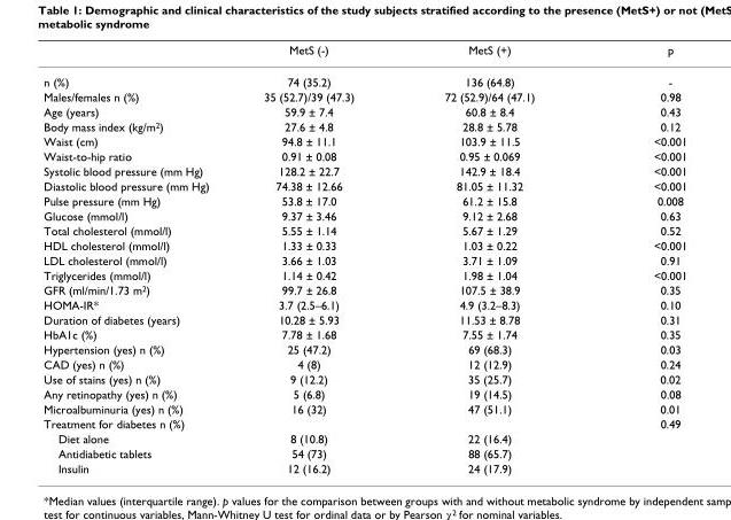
<table><thead><tr><td></td><td>MetS (-)</td><td>MetS (+)</td><td>p</td></tr></thead><tbody><tr><td>n (%)</td><td>74 (35.2)</td><td>136 (64.8)</td><td>-</td></tr><tr><td>Males/females n (%)</td><td>35 (52.7)/39 (47.3)</td><td>72 (52.9)/64 (47.1)</td><td>0.98</td></tr><tr><td>Age (years)</td><td>59.9 ± 7.4</td><td>60.8 ± 8.4</td><td>0.43</td></tr><tr><td>Body mass index (kg/m<sup>2</sup>)</td><td>27.6 ± 4.8</td><td>28.8 ± 5.78</td><td>0.12</td></tr><tr><td>Waist (cm)</td><td>94.8 ± 11.1</td><td>103.9 ± 11.5</td><td>&lt;0.001</td></tr><tr><td>Waist-to-hip ratio</td><td>0.91 ± 0.08</td><td>0.95 ± 0.069</td><td>&lt;0.001</td></tr><tr><td>Systolic blood pressure (mm Hg)</td><td>128.2 ± 22.7</td><td>142.9 ± 18.4</td><td>&lt;0.001</td></tr><tr><td>Diastolic blood pressure (mm Hg)</td><td>74.38 ± 12.66</td><td>81.05 ± 11.32</td><td>&lt;0.001</td></tr><tr><td>Pulse pressure (mm Hg)</td><td>53.8 ± 17.0</td><td>61.2 ± 15.8</td><td>0.008</td></tr><tr><td>Glucose (mmol/l)</td><td>9.37 ± 3.46</td><td>9.12 ± 2.68</td><td>0.63</td></tr><tr><td>Total cholesterol (mmol/l)</td><td>5.55 ± 1.14</td><td>5.67 ± 1.29</td><td>0.52</td></tr><tr><td>HDL cholesterol (mmol/l)</td><td>1.33 ± 0.33</td><td>1.03 ± 0.22</td><td>&lt;0.001</td></tr><tr><td>LDL cholesterol (mmol/l)</td><td>3.66 ± 1.03</td><td>3.71 ± 1.09</td><td>0.91</td></tr><tr><td>Triglycerides (mmol/l)</td><td>1.14 ± 0.42</td><td>1.98 ± 1.04</td><td>&lt;0.001</td></tr><tr><td>GFR (ml/min/1.73 m<sup>2</sup>)</td><td>99.7 ± 26.8</td><td>107.5 ± 38.9</td><td>0.35</td></tr><tr><td>HOMA-IR*</td><td>3.7 (2.5–6.1)</td><td>4.9 (3.2–8.3)</td><td>0.10</td></tr><tr><td>Duration of diabetes (years)</td><td>10.28 ± 5.93</td><td>11.53 ± 8.78</td><td>0.31</td></tr><tr><td>HbA1c (%)</td><td>7.78 ± 1.68</td><td>7.55 ± 1.74</td><td>0.35</td></tr><tr><td>Hypertension (yes) n (%)</td><td>25 (47.2)</td><td>69 (68.3)</td><td>0.03</td></tr><tr><td>CAD (yes) n (%)</td><td>4 (8)</td><td>12 (12.9)</td><td>0.24</td></tr><tr><td>Use of stains (yes) n (%)</td><td>9 (12.2)</td><td>35 (25.7)</td><td>0.02</td></tr><tr><td>Any retinopathy (yes) n (%)</td><td>5 (6.8)</td><td>19 (14.5)</td><td>0.08</td></tr><tr><td>Microalbuminuria (yes) n (%)</td><td>16 (32)</td><td>47 (51.1)</td><td>0.01</td></tr><tr><td>Treatment for diabetes n (%)</td><td></td><td></td><td>0.49</td></tr><tr><td>Diet alone</td><td>8 (10.8)</td><td>22 (16.4)</td><td></td></tr><tr><td>Antidiabetic tablets</td><td>54 (73)</td><td>88 (65.7)</td><td></td></tr><tr><td>Insulin</td><td>12 (16.2)</td><td>24 (17.9)</td><td></td></tr></tbody></table>